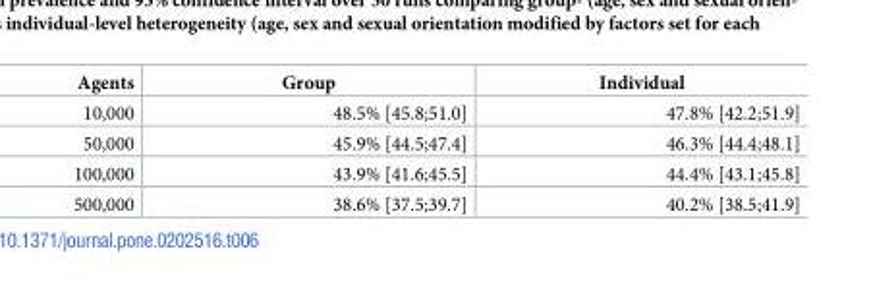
<table><thead><tr><td>Agents</td><td>Group</td><td>Individual</td></tr></thead><tbody><tr><td>10,000</td><td>48.5% [45.8;51.0]</td><td>47.8% [42.2;51.9]</td></tr><tr><td>50,000</td><td>45.9% [44.5;47.4]</td><td>46.3% [44.4;48.1]</td></tr><tr><td>100,000</td><td>43.9% [41.6;45.5]</td><td>44.4% [43.1;45.8]</td></tr><tr><td>500,000</td><td>38.6% [37.5;39.7]</td><td>40.2% [38.5;41.9]</td></tr></tbody></table>